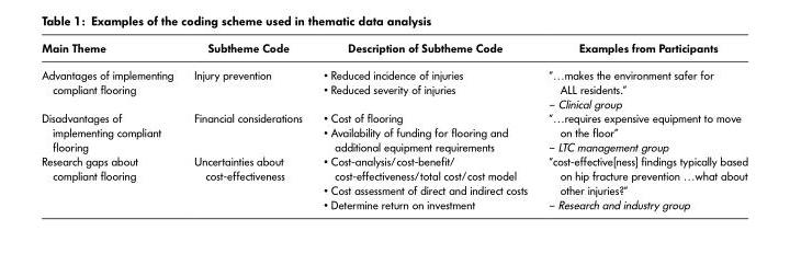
<table><thead><tr><td>Main Theme</td><td>Subtheme Code</td><td>Description of Subtheme Code</td><td>Examples from Participants</td></tr></thead><tbody><tr><td>Advantages of implementing compliant flooring</td><td>Injury prevention</td><td>• Reduced incidence of injuries • Reduced severity of injuries</td><td>“…makes the environment safer for ALL residents.” – Clinical group</td></tr><tr><td>Disadvantages of implementing compliant flooring</td><td>Financial considerations</td><td>• Cost of flooring • Availability of funding for flooring and additional equipment requirements</td><td>“…requires expensive equipment to move on the floor” – LTC management group</td></tr><tr><td>Research gaps about compliant flooring</td><td>Uncertainties about cost-effectiveness</td><td>• Cost-analysis/cost-benefit/ cost-effectiveness/total cost/cost model • Cost assessment of direct and indirect costs • Determine return on investment</td><td>“cost-effective[ness] findings typically based on hip fracture prevention …what about other injuries?” – Research and industry group</td></tr></tbody></table>